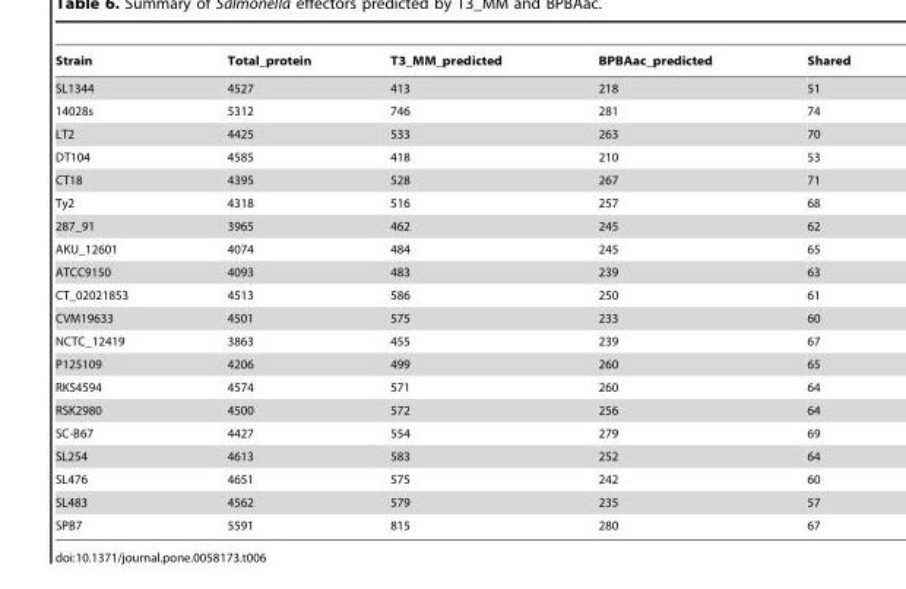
<table><thead><tr><td>Strain</td><td>Total_protein</td><td>T3_MM_predicted</td><td>BPBAac_predicted</td><td>Shared</td></tr></thead><tbody><tr><td>SL1344</td><td>4527</td><td>413</td><td>218</td><td>51</td></tr><tr><td>14028s</td><td>5312</td><td>746</td><td>281</td><td>74</td></tr><tr><td>LT2</td><td>4425</td><td>533</td><td>263</td><td>70</td></tr><tr><td>DT104</td><td>4585</td><td>418</td><td>210</td><td>53</td></tr><tr><td>CT18</td><td>4395</td><td>528</td><td>267</td><td>71</td></tr><tr><td>Ty2</td><td>4318</td><td>516</td><td>257</td><td>68</td></tr><tr><td>287_91</td><td>3965</td><td>462</td><td>245</td><td>62</td></tr><tr><td>AKU_12601</td><td>4074</td><td>484</td><td>245</td><td>65</td></tr><tr><td>ATCC9150</td><td>4093</td><td>483</td><td>239</td><td>63</td></tr><tr><td>CT_02021853</td><td>4513</td><td>586</td><td>250</td><td>61</td></tr><tr><td>CVM19633</td><td>4501</td><td>575</td><td>233</td><td>60</td></tr><tr><td>NCTC_12419</td><td>3863</td><td>455</td><td>239</td><td>67</td></tr><tr><td>P125109</td><td>4206</td><td>499</td><td>260</td><td>65</td></tr><tr><td>RKS4594</td><td>4574</td><td>571</td><td>260</td><td>64</td></tr><tr><td>RSK2980</td><td>4500</td><td>572</td><td>256</td><td>64</td></tr><tr><td>SC-B67</td><td>4427</td><td>554</td><td>279</td><td>69</td></tr><tr><td>SL254</td><td>4613</td><td>583</td><td>252</td><td>64</td></tr><tr><td>SL476</td><td>4651</td><td>575</td><td>242</td><td>60</td></tr><tr><td>SL483</td><td>4562</td><td>579</td><td>235</td><td>57</td></tr><tr><td>SPB7</td><td>5591</td><td>815</td><td>280</td><td>67</td></tr></tbody></table>